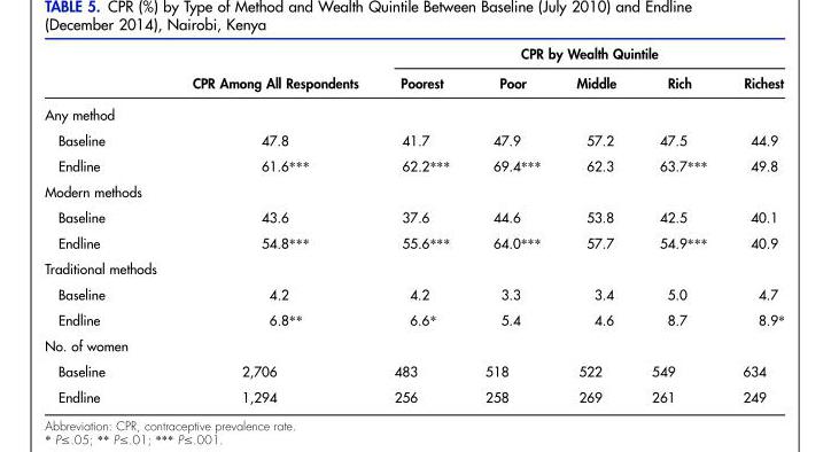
<table><thead><tr><td rowspan="2"></td><td rowspan="2">CPR Among All Respondents</td><td colspan="5">CPR by Wealth Quintile</td></tr><tr><td>Poorest</td><td>Poor</td><td>Middle</td><td>Rich</td><td>Richest</td></tr></thead><tbody><tr><td colspan="7">Any method</td></tr><tr><td>Baseline</td><td>47.8</td><td>41.7</td><td>47.9</td><td>57.2</td><td>47.5</td><td>44.9</td></tr><tr><td>Endline</td><td>61.6***</td><td>62.2***</td><td>69.4***</td><td>62.3</td><td>63.7***</td><td>49.8</td></tr><tr><td colspan="7">Modern methods</td></tr><tr><td>Baseline</td><td>43.6</td><td>37.6</td><td>44.6</td><td>53.8</td><td>42.5</td><td>40.1</td></tr><tr><td>Endline</td><td>54.8***</td><td>55.6***</td><td>64.0***</td><td>57.7</td><td>54.9***</td><td>40.9</td></tr><tr><td colspan="7">Traditional methods</td></tr><tr><td>Baseline</td><td>4.2</td><td>4.2</td><td>3.3</td><td>3.4</td><td>5.0</td><td>4.7</td></tr><tr><td>Endline</td><td>6.8**</td><td>6.6*</td><td>5.4</td><td>4.6</td><td>8.7</td><td>8.9*</td></tr><tr><td colspan="7">No. of women</td></tr><tr><td>Baseline</td><td>2,706</td><td>483</td><td>518</td><td>522</td><td>549</td><td>634</td></tr><tr><td>Endline</td><td>1,294</td><td>256</td><td>258</td><td>269</td><td>261</td><td>249</td></tr></tbody></table>